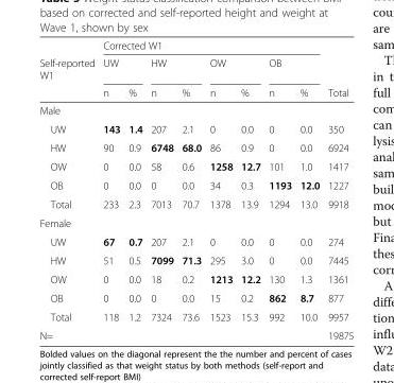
<table><thead><tr><td rowspan="3">Self-reported W1</td><td colspan="8">Corrected W1</td><td rowspan="3">Total</td></tr><tr><td colspan="2">UW</td><td colspan="2">HW</td><td colspan="2">OW</td><td colspan="2">OB</td></tr><tr><td>n</td><td>%</td><td>n</td><td>%</td><td>n</td><td>%</td><td>n</td><td>%</td></tr></thead><tbody><tr><td colspan="10">Male</td></tr><tr><td>UW</td><td>143</td><td>1.4</td><td>207</td><td>2.1</td><td>0</td><td>0.0</td><td>0</td><td>0.0</td><td>350</td></tr><tr><td>HW</td><td>90</td><td>0.9</td><td>6748</td><td>68.0</td><td>86</td><td>0.9</td><td>0</td><td>0.0</td><td>6924</td></tr><tr><td>OW</td><td>0</td><td>0.0</td><td>58</td><td>0.6</td><td>1258</td><td>12.7</td><td>101</td><td>1.0</td><td>1417</td></tr><tr><td>OB</td><td>0</td><td>0.0</td><td>0</td><td>0.0</td><td>34</td><td>0.3</td><td>1193</td><td>12.0</td><td>1227</td></tr><tr><td>Total</td><td>233</td><td>2.3</td><td>7013</td><td>70.7</td><td>1378</td><td>13.9</td><td>1294</td><td>13.0</td><td>9918</td></tr><tr><td colspan="10">Female</td></tr><tr><td>UW</td><td>67</td><td>0.7</td><td>207</td><td>2.1</td><td>0</td><td>0.0</td><td>0</td><td>0.0</td><td>274</td></tr><tr><td>HW</td><td>51</td><td>0.5</td><td>7099</td><td>71.3</td><td>295</td><td>3.0</td><td>0</td><td>0.0</td><td>7445</td></tr><tr><td>OW</td><td>0</td><td>0.0</td><td>18</td><td>0.2</td><td>1213</td><td>12.2</td><td>130</td><td>1.3</td><td>1361</td></tr><tr><td>OB</td><td>0</td><td>0.0</td><td>0</td><td>0.0</td><td>15</td><td>0.2</td><td>862</td><td>8.7</td><td>877</td></tr><tr><td>Total</td><td>118</td><td>1.2</td><td>7324</td><td>73.6</td><td>1523</td><td>15.3</td><td>992</td><td>10.0</td><td>9957</td></tr><tr><td>N=</td><td></td><td></td><td></td><td></td><td></td><td></td><td></td><td></td><td>19875</td></tr></tbody></table>